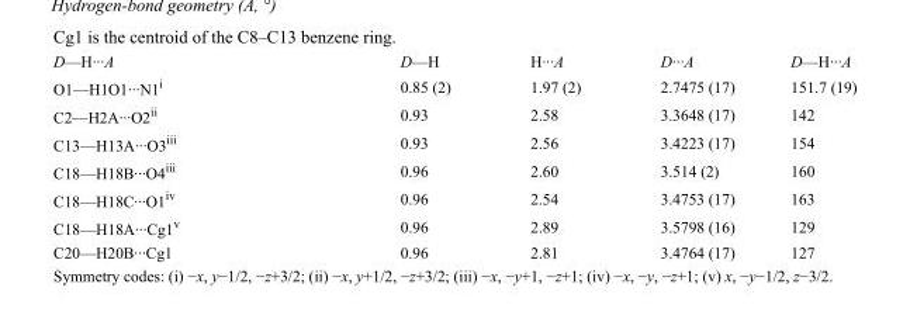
<table><tbody><tr><td>D—H···A</td><td>D—H</td><td>H···A</td><td>D···A</td><td>D—H···A</td></tr><tr><td>O1—H1O1···N1<sup>i</sup></td><td>0.85 (2)</td><td>1.97 (2)</td><td>2.7475 (17)</td><td>151.7 (19)</td></tr><tr><td>C2—H2A···O2<sup>ii</sup></td><td>0.93</td><td>2.58</td><td>3.3648 (17)</td><td>142</td></tr><tr><td>C13—H13A···O3<sup>iii</sup></td><td>0.93</td><td>2.56</td><td>3.4223 (17)</td><td>154</td></tr><tr><td>C18—H18B···O4<sup>iii</sup></td><td>0.96</td><td>2.60</td><td>3.514 (2)</td><td>160</td></tr><tr><td>C18—H18C···O1<sup>iv</sup></td><td>0.96</td><td>2.54</td><td>3.4753 (17)</td><td>163</td></tr><tr><td>C18—H18A···Cg1<sup>v</sup></td><td>0.96</td><td>2.89</td><td>3.5798 (16)</td><td>129</td></tr><tr><td>C20—H20B···Cg1</td><td>0.96</td><td>2.81</td><td>3.4764 (17)</td><td>127</td></tr></tbody></table>